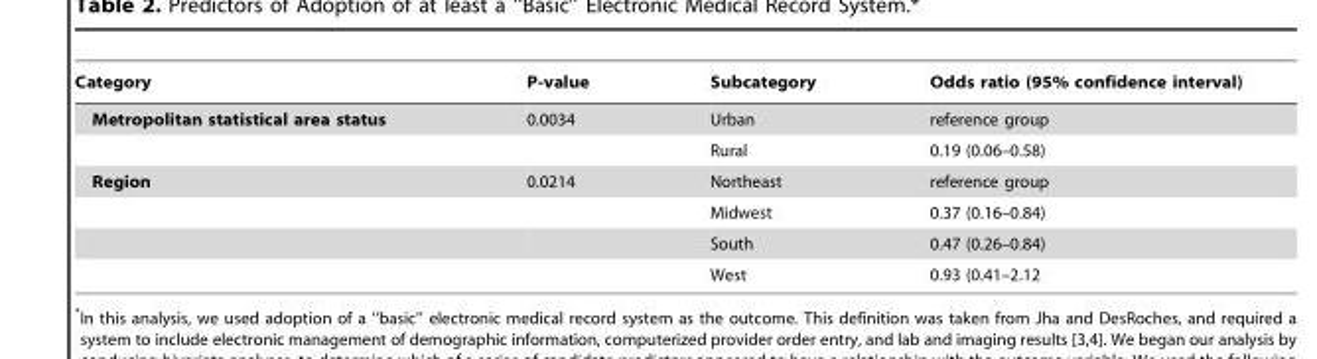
<table><thead><tr><td>Category</td><td>P-value</td><td>Subcategory</td><td>Odds ratio (95% confidence interval)</td></tr></thead><tbody><tr><td rowspan="2">Metropolitan statistical area status</td><td>0.0034</td><td>Urban</td><td>reference group</td></tr><tr><td></td><td>Rural</td><td>0.19 (0.06–0.58)</td></tr><tr><td rowspan="4">Region</td><td>0.0214</td><td>Northeast</td><td>reference group</td></tr><tr><td></td><td>Midwest</td><td>0.37 (0.16–0.84)</td></tr><tr><td></td><td>South</td><td>0.47 (0.26–0.84)</td></tr><tr><td></td><td>West</td><td>0.93 (0.41–2.12</td></tr></tbody></table>